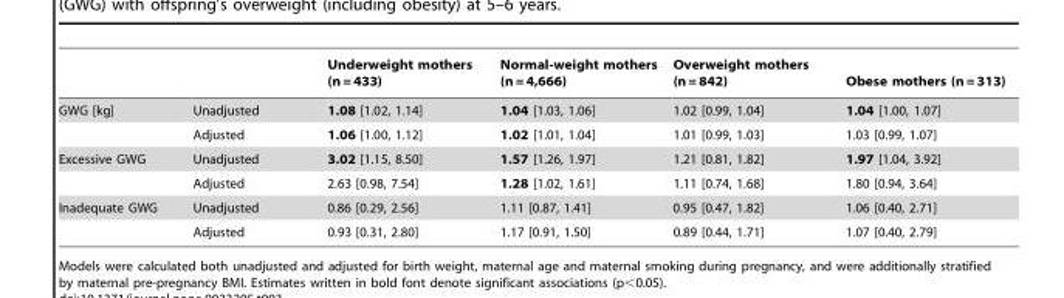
<table><thead><tr><td></td><td></td><td>Underweight mothers (n = 433)</td><td>Normal-weight mothers (n = 4,666)</td><td>Overweight mothers (n = 842)</td><td>Obese mothers (n = 313)</td></tr></thead><tbody><tr><td rowspan="2">GWG [kg]</td><td>Unadjusted</td><td>1.08 [1.02, 1.14]</td><td>1.04 [1.03, 1.06]</td><td>1.02 [0.99, 1.04]</td><td>1.04 [1.00, 1.07]</td></tr><tr><td>Adjusted</td><td>1.06 [1.00, 1.12]</td><td>1.02 [1.01, 1.04]</td><td>1.01 [0.99, 1.03]</td><td>1.03 [0.99, 1.07]</td></tr><tr><td rowspan="2">Excessive GWG</td><td>Unadjusted</td><td>3.02 [1.15, 8.50]</td><td>1.57 [1.26, 1.97]</td><td>1.21 [0.81, 1.82]</td><td>1.97 [1.04, 3.92]</td></tr><tr><td>Adjusted</td><td>2.63 [0.98, 7.54]</td><td>1.28 [1.02, 1.61]</td><td>1.11 [0.74, 1.68]</td><td>1.80 [0.94, 3.64]</td></tr><tr><td rowspan="2">Inadequate GWG</td><td>Unadjusted</td><td>0.86 [0.29, 2.56]</td><td>1.11 [0.87, 1.41]</td><td>0.95 [0.47, 1.82]</td><td>1.06 [0.40, 2.71]</td></tr><tr><td>Adjusted</td><td>0.93 [0.31, 2.80]</td><td>1.17 [0.91, 1.50]</td><td>0.89 [0.44, 1.71]</td><td>1.07 [0.40, 2.79]</td></tr></tbody></table>